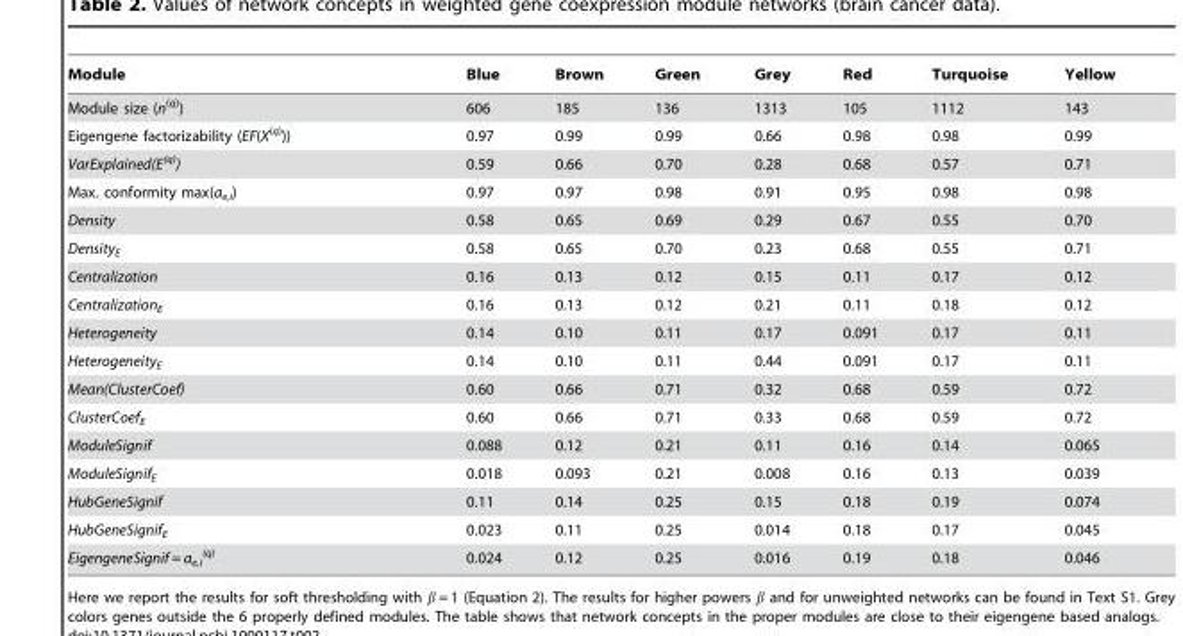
<table><thead><tr><td>Module</td><td>Blue</td><td>Brown</td><td>Green</td><td>Grey</td><td>Red</td><td>Turquoise</td><td>Yellow</td></tr></thead><tbody><tr><td>Module size (n<sup>(q)</sup>)</td><td>606</td><td>185</td><td>136</td><td>1313</td><td>105</td><td>1112</td><td>143</td></tr><tr><td>Eigengene factorizability (EF(X<sup>(q)</sup>))</td><td>0.97</td><td>0.99</td><td>0.99</td><td>0.66</td><td>0.98</td><td>0.98</td><td>0.99</td></tr><tr><td>VarExplained(E<sup>(q)</sup>)</td><td>0.59</td><td>0.66</td><td>0.70</td><td>0.28</td><td>0.68</td><td>0.57</td><td>0.71</td></tr><tr><td>Max. conformity max(a<sub>e,i</sub>)</td><td>0.97</td><td>0.97</td><td>0.98</td><td>0.91</td><td>0.95</td><td>0.98</td><td>0.98</td></tr><tr><td>Density</td><td>0.58</td><td>0.65</td><td>0.69</td><td>0.29</td><td>0.67</td><td>0.55</td><td>0.70</td></tr><tr><td>Density<sub>E</sub></td><td>0.58</td><td>0.65</td><td>0.70</td><td>0.23</td><td>0.68</td><td>0.55</td><td>0.71</td></tr><tr><td>Centralization</td><td>0.16</td><td>0.13</td><td>0.12</td><td>0.15</td><td>0.11</td><td>0.17</td><td>0.12</td></tr><tr><td>Centralization<sub>E</sub></td><td>0.16</td><td>0.13</td><td>0.12</td><td>0.21</td><td>0.11</td><td>0.18</td><td>0.12</td></tr><tr><td>Heterogeneity</td><td>0.14</td><td>0.10</td><td>0.11</td><td>0.17</td><td>0.091</td><td>0.17</td><td>0.11</td></tr><tr><td>Heterogeneity<sub>E</sub></td><td>0.14</td><td>0.10</td><td>0.11</td><td>0.44</td><td>0.091</td><td>0.17</td><td>0.11</td></tr><tr><td>Mean(ClusterCoef)</td><td>0.60</td><td>0.66</td><td>0.71</td><td>0.32</td><td>0.68</td><td>0.59</td><td>0.72</td></tr><tr><td>ClusterCoef<sub>E</sub></td><td>0.60</td><td>0.66</td><td>0.71</td><td>0.33</td><td>0.68</td><td>0.59</td><td>0.72</td></tr><tr><td>ModuleSignif</td><td>0.088</td><td>0.12</td><td>0.21</td><td>0.11</td><td>0.16</td><td>0.14</td><td>0.065</td></tr><tr><td>ModuleSignif<sub>E</sub></td><td>0.018</td><td>0.093</td><td>0.21</td><td>0.008</td><td>0.16</td><td>0.13</td><td>0.039</td></tr><tr><td>HubGeneSignif</td><td>0.11</td><td>0.14</td><td>0.25</td><td>0.15</td><td>0.18</td><td>0.19</td><td>0.074</td></tr><tr><td>HubGeneSignif<sub>E</sub></td><td>0.023</td><td>0.11</td><td>0.25</td><td>0.014</td><td>0.18</td><td>0.17</td><td>0.045</td></tr><tr><td>EigengeneSignif = a<sub>e,i</sub> <sup>(q)</sup></td><td>0.024</td><td>0.12</td><td>0.25</td><td>0.016</td><td>0.19</td><td>0.18</td><td>0.046</td></tr></tbody></table>